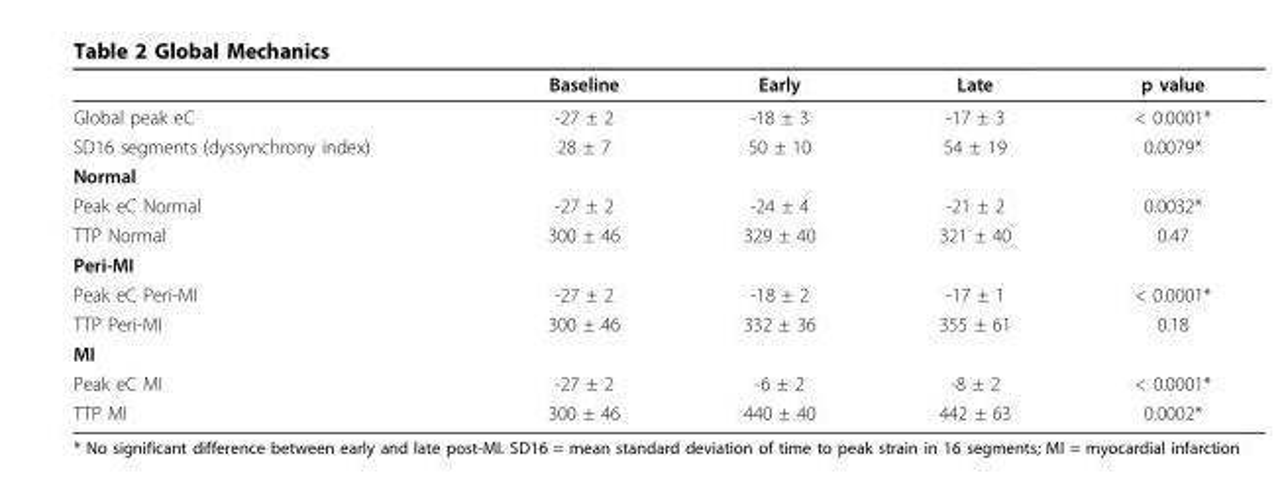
<table><thead><tr><td></td><td>Baseline</td><td>Early</td><td>Late</td><td>p value</td></tr></thead><tbody><tr><td>Global peak eC</td><td>-27 ± 2</td><td>-18 ± 3</td><td>-17 ± 3</td><td>&lt; 0.0001*</td></tr><tr><td>SD16 segments (dyssynchrony index)</td><td>28 ± 7</td><td>50 ± 10</td><td>54 ± 19</td><td>0.0079*</td></tr><tr><td colspan="5">Normal</td></tr><tr><td>Peak eC Normal</td><td>-27 ± 2</td><td>-24 ± 4</td><td>-21 ± 2</td><td>0.0032*</td></tr><tr><td>TTP Normal</td><td>300 ± 46</td><td>329 ± 40</td><td>321 ± 40</td><td>0.47</td></tr><tr><td colspan="5">Peri-MI</td></tr><tr><td>Peak eC Peri-MI</td><td>-27 ± 2</td><td>-18 ± 2</td><td>-17 ± 1</td><td>&lt; 0.0001*</td></tr><tr><td>TTP Peri-MI</td><td>300 ± 46</td><td>332 ± 36</td><td>355 ± 61</td><td>0.18</td></tr><tr><td colspan="5">MI</td></tr><tr><td>Peak eC MI</td><td>-27 ± 2</td><td>-6 ± 2</td><td>-8 ± 2</td><td>&lt; 0.0001*</td></tr><tr><td>TTP MI</td><td>300 ± 46</td><td>440 ± 40</td><td>442 ± 63</td><td>0.0002*</td></tr></tbody></table>